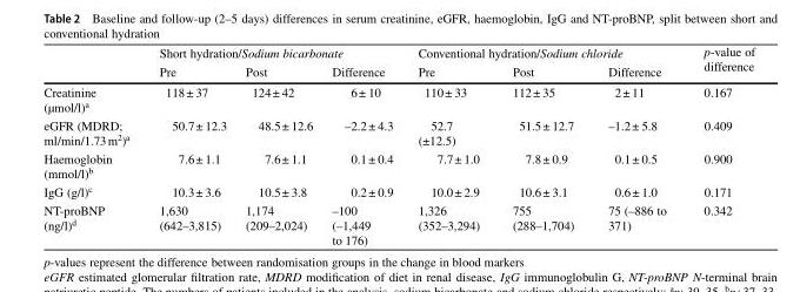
<table><thead><tr><td rowspan="2"></td><td colspan="3">Short hydration/Sodium bicarbonate</td><td colspan="3">Conventional hydration/Sodium chloride</td><td rowspan="2">p-value of difference</td></tr><tr><td>Pre</td><td>Post</td><td>Difference</td><td>Pre</td><td>Post</td><td>Difference</td></tr></thead><tbody><tr><td>Creatinine (µmol/l)<sup>a</sup></td><td>118± 37</td><td>124± 42</td><td>6± 10</td><td>110± 33</td><td>112± 35</td><td>2± 11</td><td>0.167</td></tr><tr><td>eGFR (MDRD; ml/min/1.73m<sup>2</sup>)<sup>a</sup></td><td>50.7± 12.3</td><td>48.5± 12.6</td><td>–2.2± 4.3</td><td>52.7 (±12.5)</td><td>51.5± 12.7</td><td>–1.2± 5.8</td><td>0.409</td></tr><tr><td>Haemoglobin (mmol/l)<sup>b</sup></td><td>7.6± 1.1</td><td>7.6± 1.1</td><td>0.1± 0.4</td><td>7.7± 1.0</td><td>7.8± 0.9</td><td>0.1± 0.5</td><td>0.900</td></tr><tr><td>IgG (g/l)<sup>c</sup></td><td>10.3± 3.6</td><td>10.5± 3.8</td><td>0.2± 0.9</td><td>10.0± 2.9</td><td>10.6± 3.1</td><td>0.6± 1.0</td><td>0.171</td></tr><tr><td>NT-proBNP (ng/l)<sup>d</sup></td><td>1,630 (642–3,815)</td><td>1,174 (209–2,024)</td><td>–100 (–1,449 to 176)</td><td>1,326 (352–3,294)</td><td>755 (288–1,704)</td><td>75 (–886 to 371)</td><td>0.342</td></tr></tbody></table>